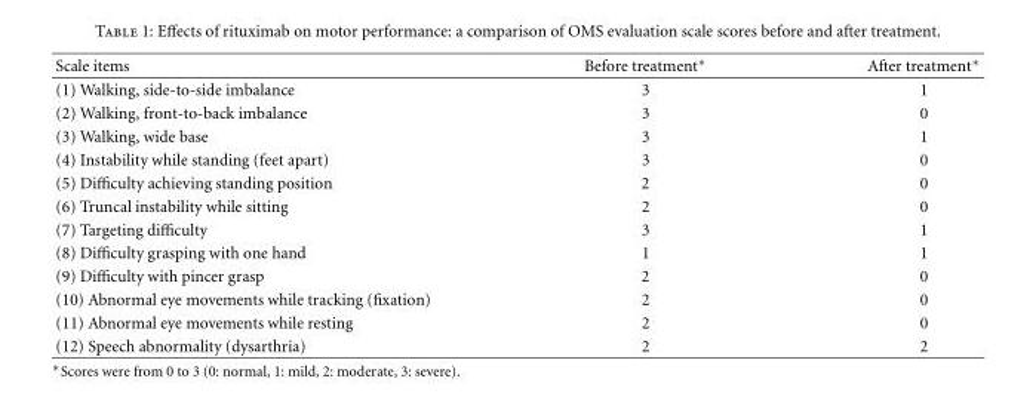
<table><thead><tr><td>Scale items</td><td>Before treatment∗</td><td>After treatment∗</td></tr></thead><tbody><tr><td>(1) Walking, side-to-side imbalance</td><td>3</td><td>1</td></tr><tr><td>(2) Walking, front-to-back imbalance</td><td>3</td><td>0</td></tr><tr><td>(3) Walking, wide base</td><td>3</td><td>1</td></tr><tr><td>(4) Instability while standing (feet apart)</td><td>3</td><td>0</td></tr><tr><td>(5) Difficulty achieving standing position</td><td>2</td><td>0</td></tr><tr><td>(6) Truncal instability while sitting</td><td>2</td><td>0</td></tr><tr><td>(7) Targeting difficulty</td><td>3</td><td>1</td></tr><tr><td>(8) Difficulty grasping with one hand</td><td>1</td><td>1</td></tr><tr><td>(9) Difficulty with pincer grasp</td><td>2</td><td>0</td></tr><tr><td>(10) Abnormal eye movements while tracking (fixation)</td><td>2</td><td>0</td></tr><tr><td>(11) Abnormal eye movements while resting</td><td>2</td><td>0</td></tr><tr><td>(12) Speech abnormality (dysarthria)</td><td>2</td><td>2</td></tr></tbody></table>